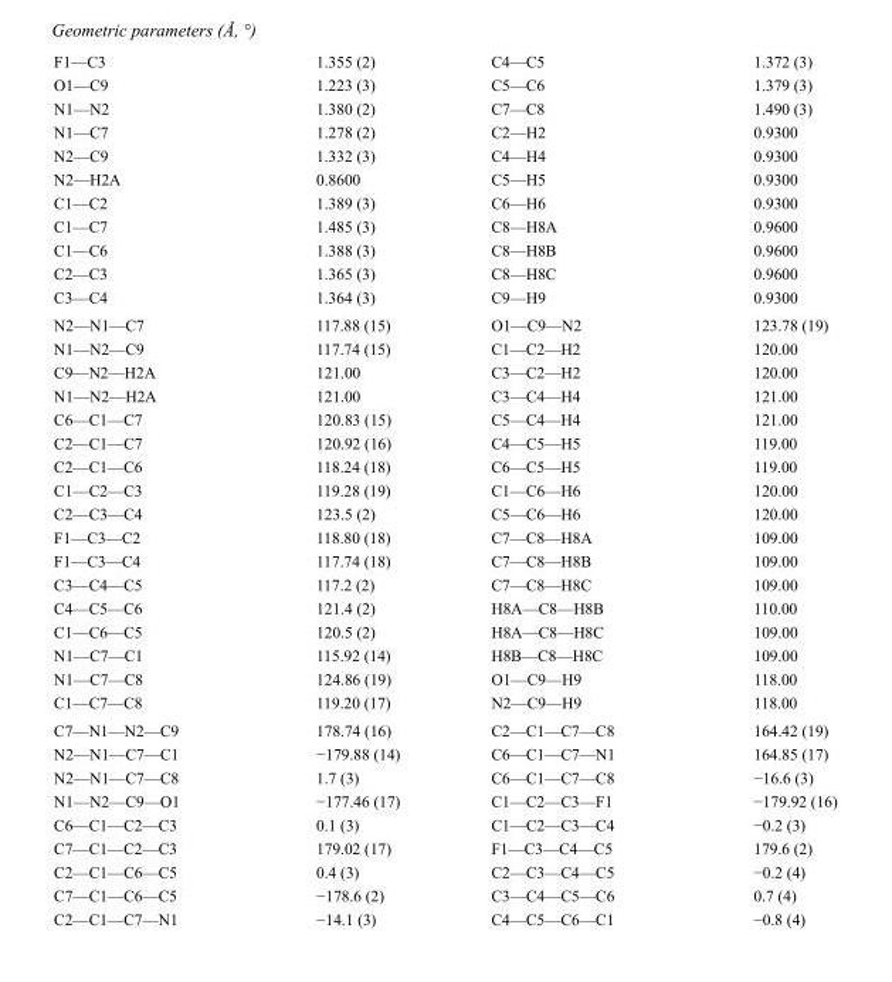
<table><tbody><tr><td>F1—C3</td><td>1.355 (2)</td><td>C4—C5</td><td>1.372 (3)</td></tr><tr><td>O1—C9</td><td>1.223 (3)</td><td>C5—C6</td><td>1.379 (3)</td></tr><tr><td>N1—N2</td><td>1.380 (2)</td><td>C7—C8</td><td>1.490 (3)</td></tr><tr><td>N1—C7</td><td>1.278 (2)</td><td>C2—H2</td><td>0.9300</td></tr><tr><td>N2—C9</td><td>1.332 (3)</td><td>C4—H4</td><td>0.9300</td></tr><tr><td>N2—H2A</td><td>0.8600</td><td>C5—H5</td><td>0.9300</td></tr><tr><td>C1—C2</td><td>1.389 (3)</td><td>C6—H6</td><td>0.9300</td></tr><tr><td>C1—C7</td><td>1.485 (3)</td><td>C8—H8A</td><td>0.9600</td></tr><tr><td>C1—C6</td><td>1.388 (3)</td><td>C8—H8B</td><td>0.9600</td></tr><tr><td>C2—C3</td><td>1.365 (3)</td><td>C8—H8C</td><td>0.9600</td></tr><tr><td>C3—C4</td><td>1.364 (3)</td><td>C9—H9</td><td>0.9300</td></tr><tr><td>N2—N1—C7</td><td>117.88 (15)</td><td>O1—C9—N2</td><td>123.78 (19)</td></tr><tr><td>N1—N2—C9</td><td>117.74 (15)</td><td>C1—C2—H2</td><td>120.00</td></tr><tr><td>C9—N2—H2A</td><td>121.00</td><td>C3—C2—H2</td><td>120.00</td></tr><tr><td>N1—N2—H2A</td><td>121.00</td><td>C3—C4—H4</td><td>121.00</td></tr><tr><td>C6—C1—C7</td><td>120.83 (15)</td><td>C5—C4—H4</td><td>121.00</td></tr><tr><td>C2—C1—C7</td><td>120.92 (16)</td><td>C4—C5—H5</td><td>119.00</td></tr><tr><td>C2—C1—C6</td><td>118.24 (18)</td><td>C6—C5—H5</td><td>119.00</td></tr><tr><td>C1—C2—C3</td><td>119.28 (19)</td><td>C1—C6—H6</td><td>120.00</td></tr><tr><td>C2—C3—C4</td><td>123.5 (2)</td><td>C5—C6—H6</td><td>120.00</td></tr><tr><td>F1—C3—C2</td><td>118.80 (18)</td><td>C7—C8—H8A</td><td>109.00</td></tr><tr><td>F1—C3—C4</td><td>117.74 (18)</td><td>C7—C8—H8B</td><td>109.00</td></tr><tr><td>C3—C4—C5</td><td>117.2 (2)</td><td>C7—C8—H8C</td><td>109.00</td></tr><tr><td>C4—C5—C6</td><td>121.4 (2)</td><td>H8A—C8—H8B</td><td>110.00</td></tr><tr><td>C1—C6—C5</td><td>120.5 (2)</td><td>H8A—C8—H8C</td><td>109.00</td></tr><tr><td>N1—C7—C1</td><td>115.92 (14)</td><td>H8B—C8—H8C</td><td>109.00</td></tr><tr><td>N1—C7—C8</td><td>124.86 (19)</td><td>O1—C9—H9</td><td>118.00</td></tr><tr><td>C1—C7—C8</td><td>119.20 (17)</td><td>N2—C9—H9</td><td>118.00</td></tr><tr><td>C7—N1—N2—C9</td><td>178.74 (16)</td><td>C2—C1—C7—C8</td><td>164.42 (19)</td></tr><tr><td>N2—N1—C7—C1</td><td>−179.88 (14)</td><td>C6—C1—C7—N1</td><td>164.85 (17)</td></tr><tr><td>N2—N1—C7—C8</td><td>1.7 (3)</td><td>C6—C1—C7—C8</td><td>−16.6 (3)</td></tr><tr><td>N1—N2—C9—O1</td><td>−177.46 (17)</td><td>C1—C2—C3—F1</td><td>−179.92 (16)</td></tr><tr><td>C6—C1—C2—C3</td><td>0.1 (3)</td><td>C1—C2—C3—C4</td><td>−0.2 (3)</td></tr><tr><td>C7—C1—C2—C3</td><td>179.02 (17)</td><td>F1—C3—C4—C5</td><td>179.6 (2)</td></tr><tr><td>C2—C1—C6—C5</td><td>0.4 (3)</td><td>C2—C3—C4—C5</td><td>−0.2 (4)</td></tr><tr><td>C7—C1—C6—C5</td><td>−178.6 (2)</td><td>C3—C4—C5—C6</td><td>0.7 (4)</td></tr><tr><td>C2—C1—C7—N1</td><td>−14.1 (3)</td><td>C4—C5—C6—C1</td><td>−0.8 (4)</td></tr></tbody></table>